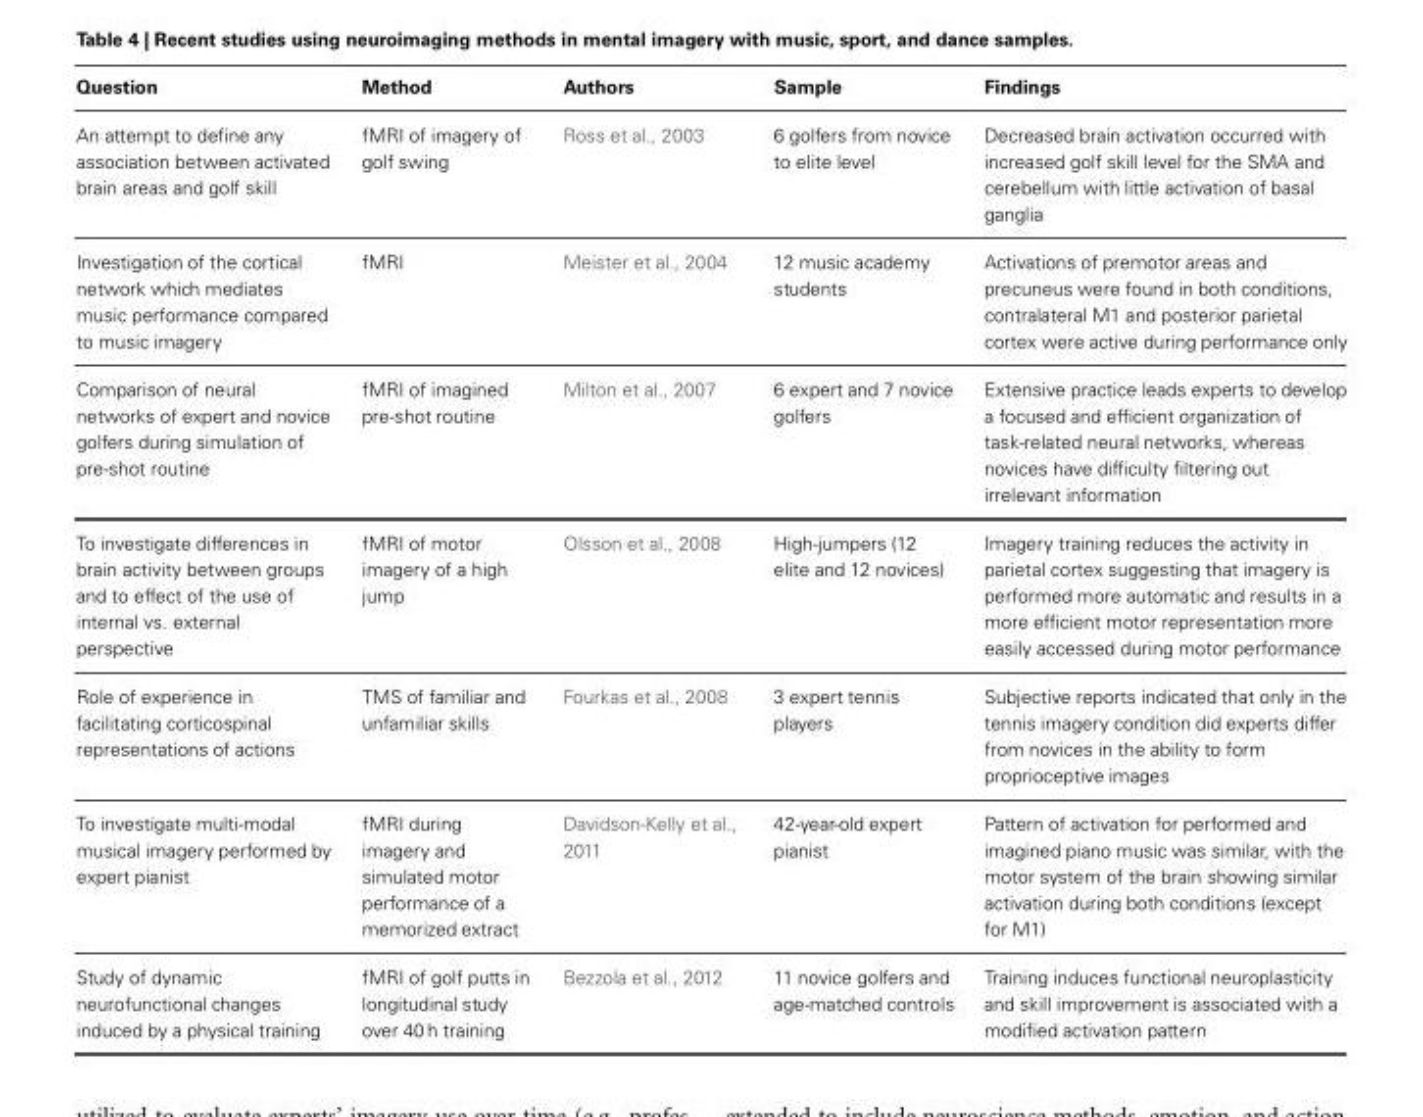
<table><thead><tr><td>Question</td><td>Method</td><td>Authors</td><td>Sample</td><td>Findings</td></tr></thead><tbody><tr><td>An attempt to define any association between activated brain areas and golf skill</td><td>fMRI of imagery of golf swing</td><td>Ross et al., 2003</td><td>6 golfers from novice to elite level</td><td>Decreased brain activation occurred with increased golf skill level for the SMA and cerebellum with little activation of basal ganglia</td></tr><tr><td>Investigation of the cortical network which mediates music performance compared to music imagery</td><td>fMRI</td><td>Meister et al., 2004</td><td>12 music academy students</td><td>Activations of premotor areas and precuneus were found in both conditions, contralateral M1 and posterior parietal cortex were active during performance only</td></tr><tr><td>Comparison of neural networks of expert and novice golfers during simulation of pre-shot routine</td><td>fMRI of imagined pre-shot routine</td><td>Milton et al., 2007</td><td>6 expert and 7 novice golfers</td><td>Extensive practice leads experts to develop a focused and efficient organization of task-related neural networks, whereas novices have difficulty filtering out irrelevant information</td></tr><tr><td>To investigate differences in brain activity between groups and to effect of the use of internal vs. external perspective</td><td>fMRI of motor imagery of a high jump</td><td>Olsson et al., 2008</td><td>High-jumpers (12 elite and 12 novices)</td><td>Imagery training reduces the activity in parietal cortex suggesting that imagery is performed more automatic and results in a more efficient motor representation more easily accessed during motor performance</td></tr><tr><td>Role of experience in facilitating corticospinal representations of actions</td><td>TMS of familiar and unfamiliar skills</td><td>Fourkas et al., 2008</td><td>3 expert tennis players</td><td>Subjective reports indicated that only in the tennis imagery condition did experts differ from novices in the ability to form proprioceptive images</td></tr><tr><td>To investigate multi-modal musical imagery performed by expert pianist</td><td>fMRI during imagery and simulated motor performance of a memorized extract</td><td>Davidson-Kelly et al., 2011</td><td>42-year-old expert pianist</td><td>Pattern of activation for performed and imagined piano music was similar, with the motor system of the brain showing similar activation during both conditions (except for M1)</td></tr><tr><td>Study of dynamic neurofunctional changes induced by a physical training</td><td>fMRI of golf putts in longitudinal study over 40 h training</td><td>Bezzola et al., 2012</td><td>11 novice golfers and age-matched controls</td><td>Training induces functional neuroplasticity and skill improvement is associated with a modified activation pattern</td></tr></tbody></table>